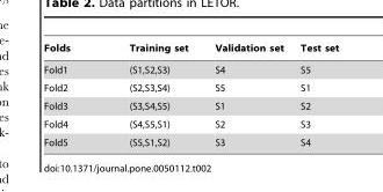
<table><thead><tr><td>Folds</td><td>Training set</td><td>Validation set</td><td>Test set</td></tr></thead><tbody><tr><td>Fold1</td><td>(S1,S2,S3)</td><td>S4</td><td>S5</td></tr><tr><td>Fold2</td><td>(S2,S3,S4)</td><td>S5</td><td>S1</td></tr><tr><td>Fold3</td><td>(S3,S4,S5)</td><td>S1</td><td>S2</td></tr><tr><td>Fold4</td><td>(S4,S5,S1)</td><td>S2</td><td>S3</td></tr><tr><td>Fold5</td><td>(S5,S1,S2)</td><td>S3</td><td>S4</td></tr></tbody></table>